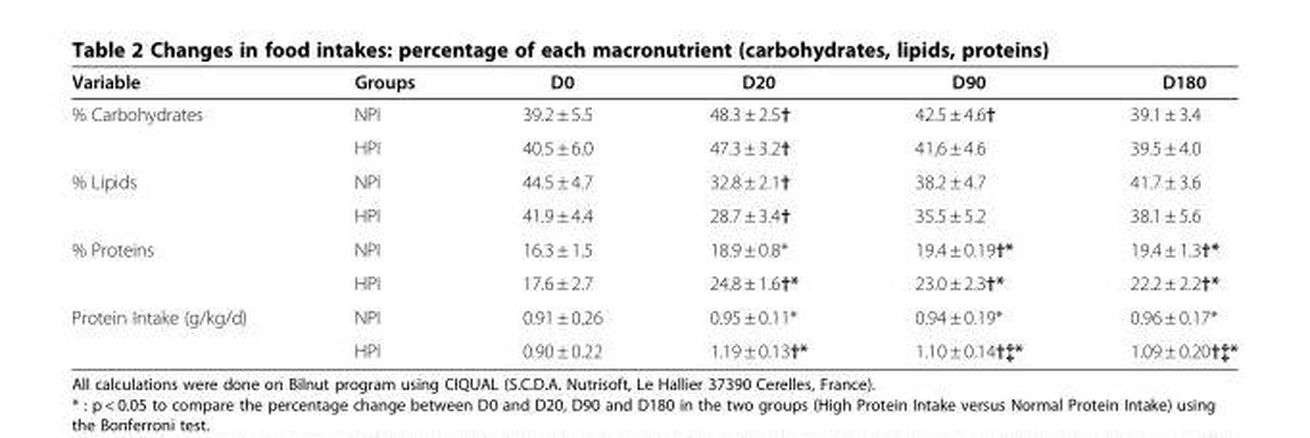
<table><thead><tr><td>Variable</td><td>Groups</td><td>D0</td><td>D20</td><td>D90</td><td>D180</td></tr></thead><tbody><tr><td rowspan="2">% Carbohydrates</td><td>NPI</td><td>39.2 ± 5.5</td><td>48.3 ± 2.5†</td><td>42.5 ± 4.6†</td><td>39.1 ± 3.4</td></tr><tr><td>HPI</td><td>40.5 ± 6.0</td><td>47.3 ± 3.2†</td><td>41,6 ± 4.6</td><td>39.5 ± 4.0</td></tr><tr><td rowspan="2">% Lipids</td><td>NPI</td><td>44.5 ± 4.7</td><td>32.8 ± 2.1†</td><td>38.2 ± 4.7</td><td>41.7 ± 3.6</td></tr><tr><td>HPI</td><td>41.9 ± 4.4</td><td>28.7 ± 3.4†</td><td>35.5 ± 5.2</td><td>38.1 ± 5.6</td></tr><tr><td rowspan="2">% Proteins</td><td>NPI</td><td>16.3 ± 1.5</td><td>18.9 ± 0.8*</td><td>19.4 ± 0.19†*</td><td>19.4 ± 1.3†*</td></tr><tr><td>HPI</td><td>17.6 ± 2.7</td><td>24.8 ± 1.6†*</td><td>23.0 ± 2.3†*</td><td>22.2 ± 2.2†*</td></tr><tr><td rowspan="2">Protein Intake (g/kg/d)</td><td>NPI</td><td>0.91 ± 0.26</td><td>0.95 ± 0.11*</td><td>0.94 ± 0.19*</td><td>0.96 ± 0.17*</td></tr><tr><td>HPI</td><td>0.90 ± 0.22</td><td>1.19 ± 0.13†*</td><td>1.10 ± 0.14†{{*</td><td>1.09 ± 0.20†{{*</td></tr></tbody></table>